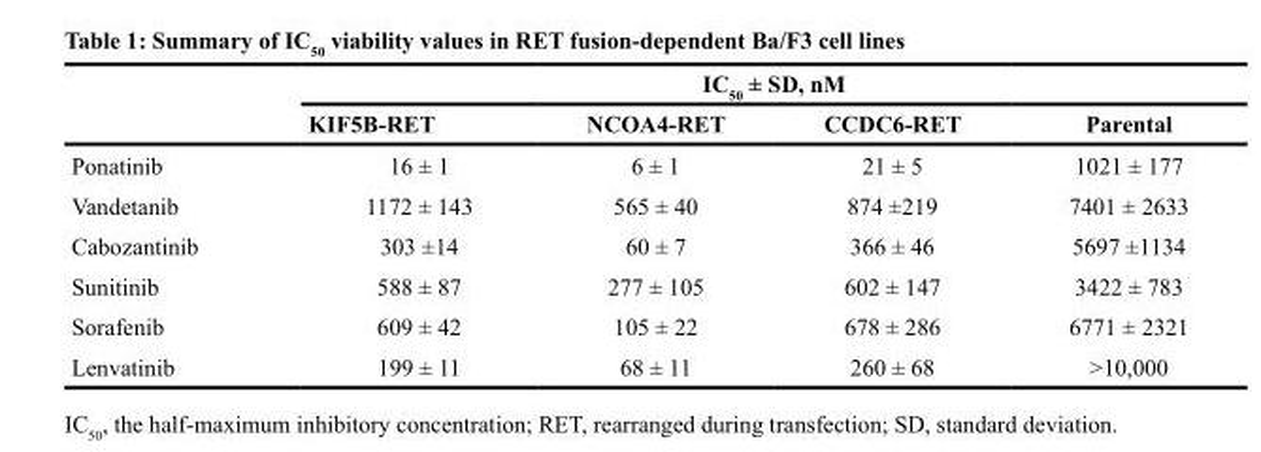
<table><thead><tr><td rowspan="2"></td><td colspan="4">IC<sub>50</sub> ± SD, nM</td></tr><tr><td>KIF5B-RET</td><td>NCOA4-RET</td><td>CCDC6-RET</td><td>Parental</td></tr></thead><tbody><tr><td>Ponatinib</td><td>16 ± 1</td><td>6 ± 1</td><td>21 ± 5</td><td>1021 ± 177</td></tr><tr><td>Vandetanib</td><td>1172 ± 143</td><td>565 ± 40</td><td>874 ±219</td><td>7401 ± 2633</td></tr><tr><td>Cabozantinib</td><td>303 ±14</td><td>60 ± 7</td><td>366 ± 46</td><td>5697 ±1134</td></tr><tr><td>Sunitinib</td><td>588 ± 87</td><td>277 ± 105</td><td>602 ± 147</td><td>3422 ± 783</td></tr><tr><td>Sorafenib</td><td>609 ± 42</td><td>105 ± 22</td><td>678 ± 286</td><td>6771 ± 2321</td></tr><tr><td>Lenvatinib</td><td>199 ± 11</td><td>68 ± 11</td><td>260 ± 68</td><td>&gt;10,000</td></tr></tbody></table>